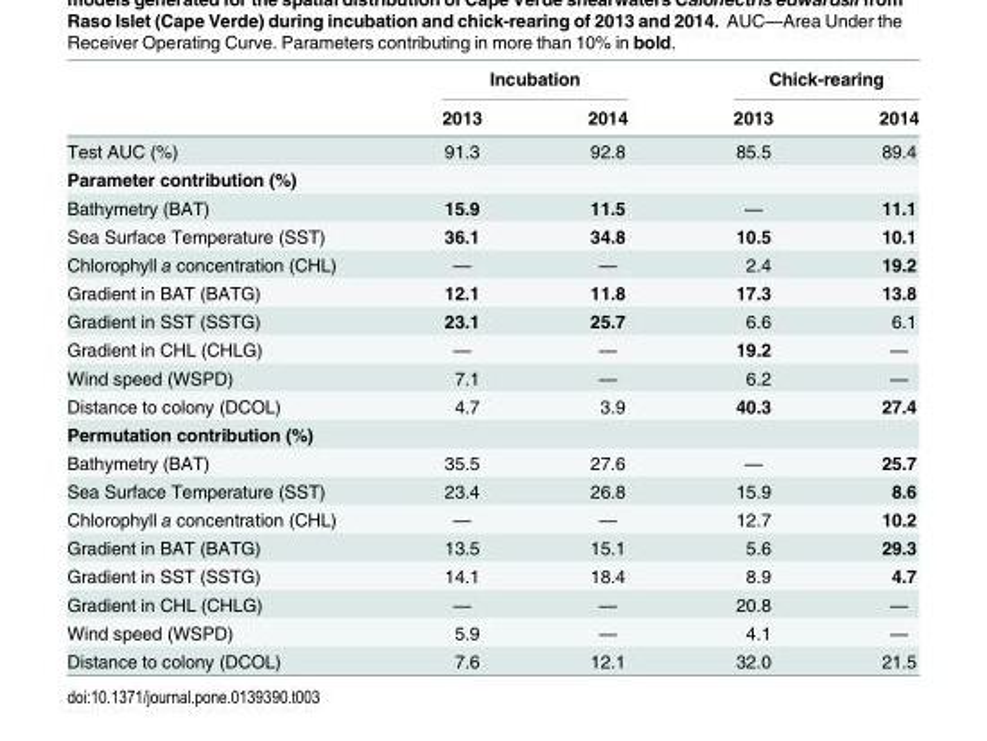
<table><thead><tr><td rowspan="2"></td><td colspan="2">Incubation</td><td colspan="2">Chick-rearing</td></tr><tr><td>2013</td><td>2014</td><td>2013</td><td>2014</td></tr></thead><tbody><tr><td>Test AUC (%)</td><td>91.3</td><td>92.8</td><td>85.5</td><td>89.4</td></tr><tr><td colspan="5">Parameter contribution (%)</td></tr><tr><td>Bathymetry (BAT)</td><td>15.9</td><td>11.5</td><td>—</td><td>11.1</td></tr><tr><td>Sea Surface Temperature (SST)</td><td>36.1</td><td>34.8</td><td>10.5</td><td>10.1</td></tr><tr><td>Chlorophyll a concentration (CHL)</td><td>—</td><td>—</td><td>2.4</td><td>19.2</td></tr><tr><td>Gradient in BAT (BATG)</td><td>12.1</td><td>11.8</td><td>17.3</td><td>13.8</td></tr><tr><td>Gradient in SST (SSTG)</td><td>23.1</td><td>25.7</td><td>6.6</td><td>6.1</td></tr><tr><td>Gradient in CHL (CHLG)</td><td>—</td><td>—</td><td>19.2</td><td>—</td></tr><tr><td>Wind speed (WSPD)</td><td>7.1</td><td>—</td><td>6.2</td><td>—</td></tr><tr><td>Distance to colony (DCOL)</td><td>4.7</td><td>3.9</td><td>40.3</td><td>27.4</td></tr><tr><td colspan="5">Permutation contribution (%)</td></tr><tr><td>Bathymetry (BAT)</td><td>35.5</td><td>27.6</td><td>—</td><td>25.7</td></tr><tr><td>Sea Surface Temperature (SST)</td><td>23.4</td><td>26.8</td><td>15.9</td><td>8.6</td></tr><tr><td>Chlorophyll a concentration (CHL)</td><td>—</td><td>—</td><td>12.7</td><td>10.2</td></tr><tr><td>Gradient in BAT (BATG)</td><td>13.5</td><td>15.1</td><td>5.6</td><td>29.3</td></tr><tr><td>Gradient in SST (SSTG)</td><td>14.1</td><td>18.4</td><td>8.9</td><td>4.7</td></tr><tr><td>Gradient in CHL (CHLG)</td><td>—</td><td>—</td><td>20.8</td><td>—</td></tr><tr><td>Wind speed (WSPD)</td><td>5.9</td><td>—</td><td>4.1</td><td>—</td></tr><tr><td>Distance to colony (DCOL)</td><td>7.6</td><td>12.1</td><td>32.0</td><td>21.5</td></tr></tbody></table>